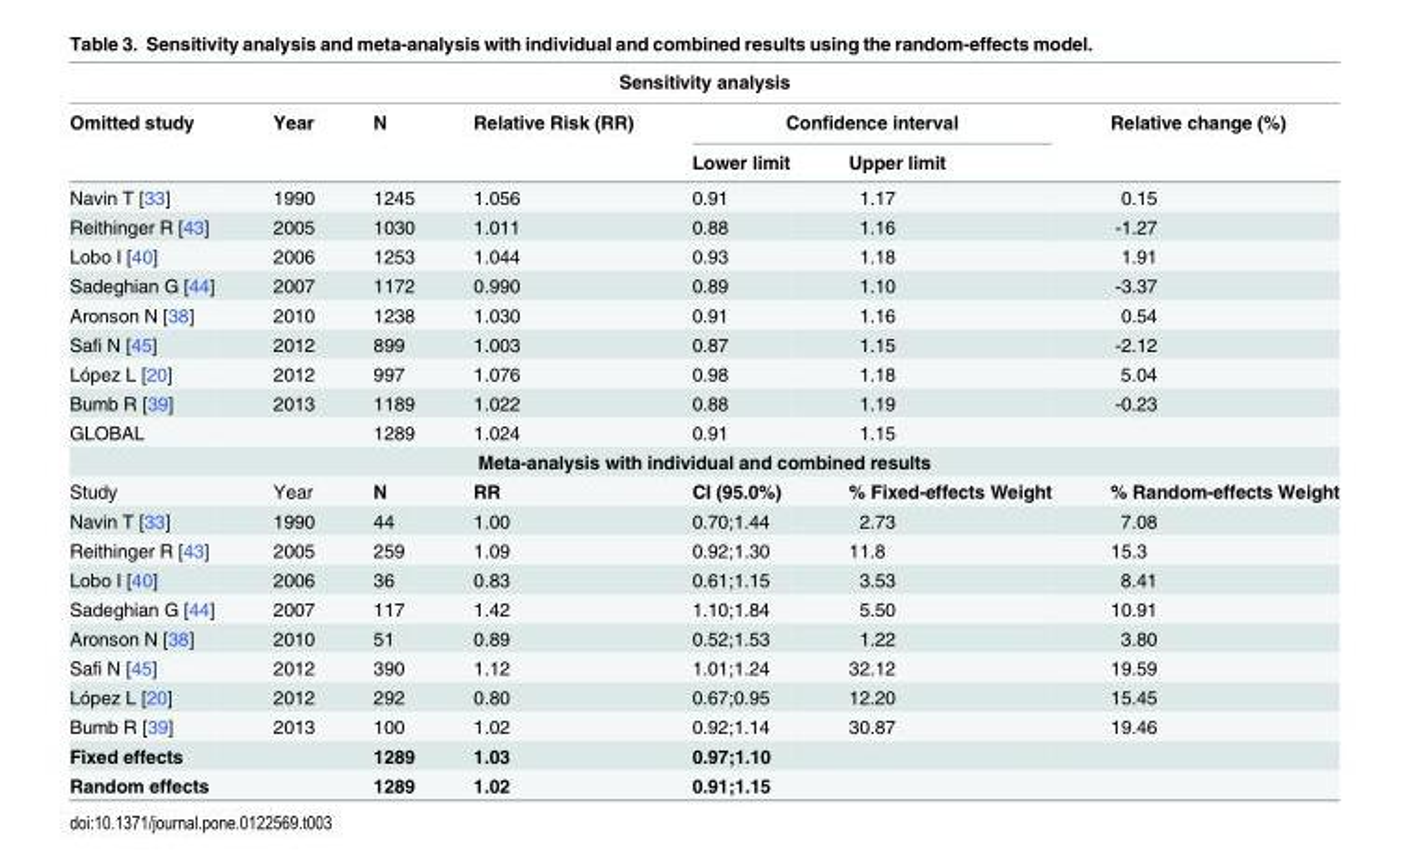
<table><thead><tr><td colspan="7">Sensitivity analysis</td></tr><tr><td rowspan="2">Omitted study</td><td rowspan="2">Year</td><td rowspan="2">N</td><td rowspan="2">Relative Risk (RR)</td><td colspan="2">Confidence interval</td><td rowspan="2">Relative change (%)</td></tr><tr><td>Lower limit</td><td>Upper limit</td></tr></thead><tbody><tr><td>Navin T [33]</td><td>1990</td><td>1245</td><td>1.056</td><td>0.91</td><td>1.17</td><td>0.15</td></tr><tr><td>Reithinger R [43]</td><td>2005</td><td>1030</td><td>1.011</td><td>0.88</td><td>1.16</td><td>-1.27</td></tr><tr><td>Lobo I [40]</td><td>2006</td><td>1253</td><td>1.044</td><td>0.93</td><td>1.18</td><td>1.91</td></tr><tr><td>Sadeghian G [44]</td><td>2007</td><td>1172</td><td>0.990</td><td>0.89</td><td>1.10</td><td>-3.37</td></tr><tr><td>Aronson N [38]</td><td>2010</td><td>1238</td><td>1.030</td><td>0.91</td><td>1.16</td><td>0.54</td></tr><tr><td>Safi N [45]</td><td>2012</td><td>899</td><td>1.003</td><td>0.87</td><td>1.15</td><td>-2.12</td></tr><tr><td>López L [20]</td><td>2012</td><td>997</td><td>1.076</td><td>0.98</td><td>1.18</td><td>5.04</td></tr><tr><td>Bumb R [39]</td><td>2013</td><td>1189</td><td>1.022</td><td>0.88</td><td>1.19</td><td>-0.23</td></tr><tr><td>GLOBAL</td><td></td><td>1289</td><td>1.024</td><td>0.91</td><td>1.15</td><td></td></tr><tr><td colspan="7">Meta-analysis with individual and combined results</td></tr><tr><td>Study</td><td>Year</td><td>N</td><td>RR</td><td>CI (95.0%)</td><td>% Fixed-effects Weight</td><td>% Random-effects Weight</td></tr><tr><td>Navin T [33]</td><td>1990</td><td>44</td><td>1.00</td><td>0.70;1.44</td><td>2.73</td><td>7.08</td></tr><tr><td>Reithinger R [43]</td><td>2005</td><td>259</td><td>1.09</td><td>0.92;1.30</td><td>11.8</td><td>15.3</td></tr><tr><td>Lobo I [40]</td><td>2006</td><td>36</td><td>0.83</td><td>0.61;1.15</td><td>3.53</td><td>8.41</td></tr><tr><td>Sadeghian G [44]</td><td>2007</td><td>117</td><td>1.42</td><td>1.10;1.84</td><td>5.50</td><td>10.91</td></tr><tr><td>Aronson N [38]</td><td>2010</td><td>51</td><td>0.89</td><td>0.52;1.53</td><td>1.22</td><td>3.80</td></tr><tr><td>Safi N [45]</td><td>2012</td><td>390</td><td>1.12</td><td>1.01;1.24</td><td>32.12</td><td>19.59</td></tr><tr><td>López L [20]</td><td>2012</td><td>292</td><td>0.80</td><td>0.67;0.95</td><td>12.20</td><td>15.45</td></tr><tr><td>Bumb R [39]</td><td>2013</td><td>100</td><td>1.02</td><td>0.92;1.14</td><td>30.87</td><td>19.46</td></tr><tr><td>Fixed effects</td><td></td><td>1289</td><td>1.03</td><td>0.97;1.10</td><td></td><td></td></tr><tr><td>Random effects</td><td></td><td>1289</td><td>1.02</td><td>0.91;1.15</td><td></td><td></td></tr></tbody></table>